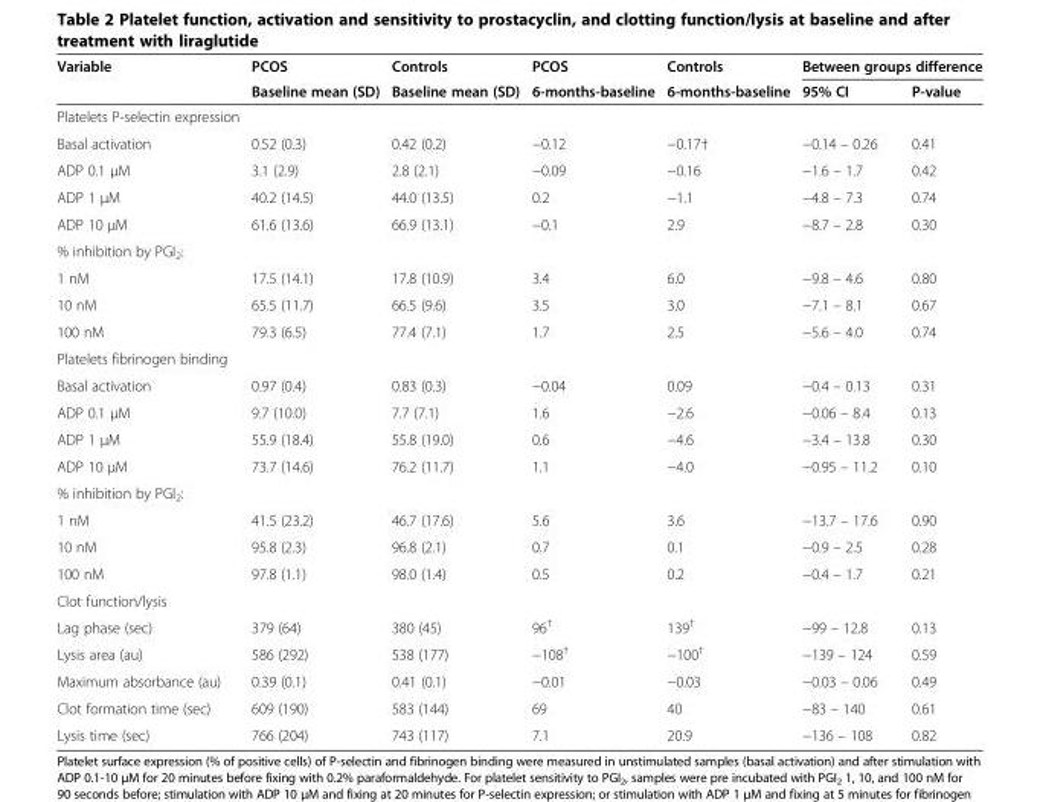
<table><thead><tr><td rowspan="2">Variable</td><td rowspan="2">PCOS Baseline mean (SD)</td><td rowspan="2">Controls Baseline mean (SD)</td><td rowspan="2">PCOS 6-months-baseline</td><td rowspan="2">Controls 6-months-baseline</td><td colspan="2">Between groups difference</td></tr><tr><td>95% CI</td><td>P-value</td></tr></thead><tbody><tr><td colspan="7">Platelets P-selectin expression</td></tr><tr><td>Basal activation</td><td>0.52 (0.3)</td><td>0.42 (0.2)</td><td>−0.12</td><td>−0.17†</td><td>−0.14 – 0.26</td><td>0.41</td></tr><tr><td>ADP 0.1 μM</td><td>3.1 (2.9)</td><td>2.8 (2.1)</td><td>−0.09</td><td>−0.16</td><td>−1.6 – 1.7</td><td>0.42</td></tr><tr><td>ADP 1 μM</td><td>40.2 (14.5)</td><td>44.0 (13.5)</td><td>0.2</td><td>−1.1</td><td>−4.8 – 7.3</td><td>0.74</td></tr><tr><td>ADP 10 μM</td><td>61.6 (13.6)</td><td>66.9 (13.1)</td><td>−0.1</td><td>2.9</td><td>−8.7 – 2.8</td><td>0.30</td></tr><tr><td colspan="7">% inhibition by PGI<sub>2</sub>:</td></tr><tr><td>1 nM</td><td>17.5 (14.1)</td><td>17.8 (10.9)</td><td>3.4</td><td>6.0</td><td>−9.8 – 4.6</td><td>0.80</td></tr><tr><td>10 nM</td><td>65.5 (11.7)</td><td>66.5 (9.6)</td><td>3.5</td><td>3.0</td><td>−7.1 – 8.1</td><td>0.67</td></tr><tr><td>100 nM</td><td>79.3 (6.5)</td><td>77.4 (7.1)</td><td>1.7</td><td>2.5</td><td>−5.6 – 4.0</td><td>0.74</td></tr><tr><td colspan="7">Platelets fibrinogen binding</td></tr><tr><td>Basal activation</td><td>0.97 (0.4)</td><td>0.83 (0.3)</td><td>−0.04</td><td>0.09</td><td>−0.4 – 0.13</td><td>0.31</td></tr><tr><td>ADP 0.1 μM</td><td>9.7 (10.0)</td><td>7.7 (7.1)</td><td>1.6</td><td>−2.6</td><td>−0.06 – 8.4</td><td>0.13</td></tr><tr><td>ADP 1 μM</td><td>55.9 (18.4)</td><td>55.8 (19.0)</td><td>0.6</td><td>−4.6</td><td>−3.4 – 13.8</td><td>0.30</td></tr><tr><td>ADP 10 μM</td><td>73.7 (14.6)</td><td>76.2 (11.7)</td><td>1.1</td><td>−4.0</td><td>−0.95 – 11.2</td><td>0.10</td></tr><tr><td colspan="7">% inhibition by PGI<sub>2</sub>:</td></tr><tr><td>1 nM</td><td>41.5 (23.2)</td><td>46.7 (17.6)</td><td>5.6</td><td>3.6</td><td>−13.7 – 17.6</td><td>0.90</td></tr><tr><td>10 nM</td><td>95.8 (2.3)</td><td>96.8 (2.1)</td><td>0.7</td><td>0.1</td><td>−0.9 – 2.5</td><td>0.28</td></tr><tr><td>100 nM</td><td>97.8 (1.1)</td><td>98.0 (1.4)</td><td>0.5</td><td>0.2</td><td>−0.4 – 1.7</td><td>0.21</td></tr><tr><td colspan="7">Clot function/lysis</td></tr><tr><td>Lag phase (sec)</td><td>379 (64)</td><td>380 (45)</td><td>96<sup>†</sup></td><td>139<sup>†</sup></td><td>−99 – 12.8</td><td>0.13</td></tr><tr><td>Lysis area (au)</td><td>586 (292)</td><td>538 (177)</td><td>−108<sup>†</sup></td><td>−100<sup>†</sup></td><td>−139 – 124</td><td>0.59</td></tr><tr><td>Maximum absorbance (au)</td><td>0.39 (0.1)</td><td>0.41 (0.1)</td><td>−0.01</td><td>−0.03</td><td>−0.03 – 0.06</td><td>0.49</td></tr><tr><td>Clot formation time (sec)</td><td>609 (190)</td><td>583 (144)</td><td>69</td><td>40</td><td>−83 – 140</td><td>0.61</td></tr><tr><td>Lysis time (sec)</td><td>766 (204)</td><td>743 (117)</td><td>7.1</td><td>20.9</td><td>−136 – 108</td><td>0.82</td></tr></tbody></table>